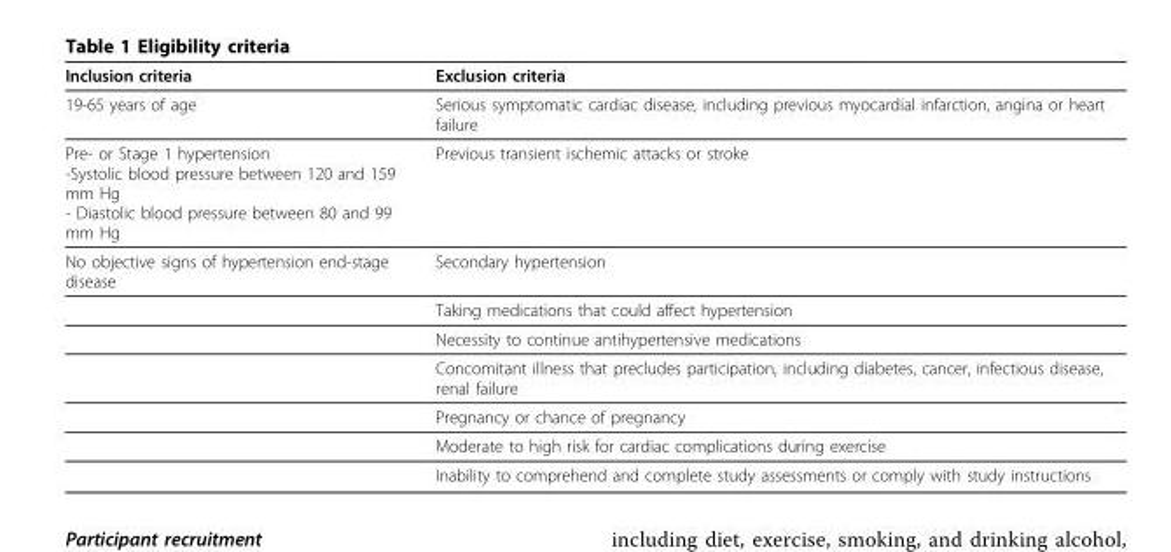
<table><thead><tr><td>Inclusion criteria</td><td>Exclusion criteria</td></tr></thead><tbody><tr><td>19-65 years of age</td><td>Serious symptomatic cardiac disease, including previous myocardial infarction, angina or heart failure</td></tr><tr><td>Pre- or Stage 1 hypertension -Systolic blood pressure between 120 and 159 mm Hg - Diastolic blood pressure between 80 and 99 mm Hg</td><td>Previous transient ischemic attacks or stroke</td></tr><tr><td rowspan="7">No objective signs of hypertension end-stage disease</td><td>Secondary hypertension</td></tr><tr><td>Taking medications that could affect hypertension</td></tr><tr><td>Necessity to continue antihypertensive medications</td></tr><tr><td>Concomitant illness that precludes participation, including diabetes, cancer, infectious disease, renal failure</td></tr><tr><td>Pregnancy or chance of pregnancy</td></tr><tr><td>Moderate to high risk for cardiac complications during exercise</td></tr><tr><td>Inability to comprehend and complete study assessments or comply with study instructions</td></tr></tbody></table>